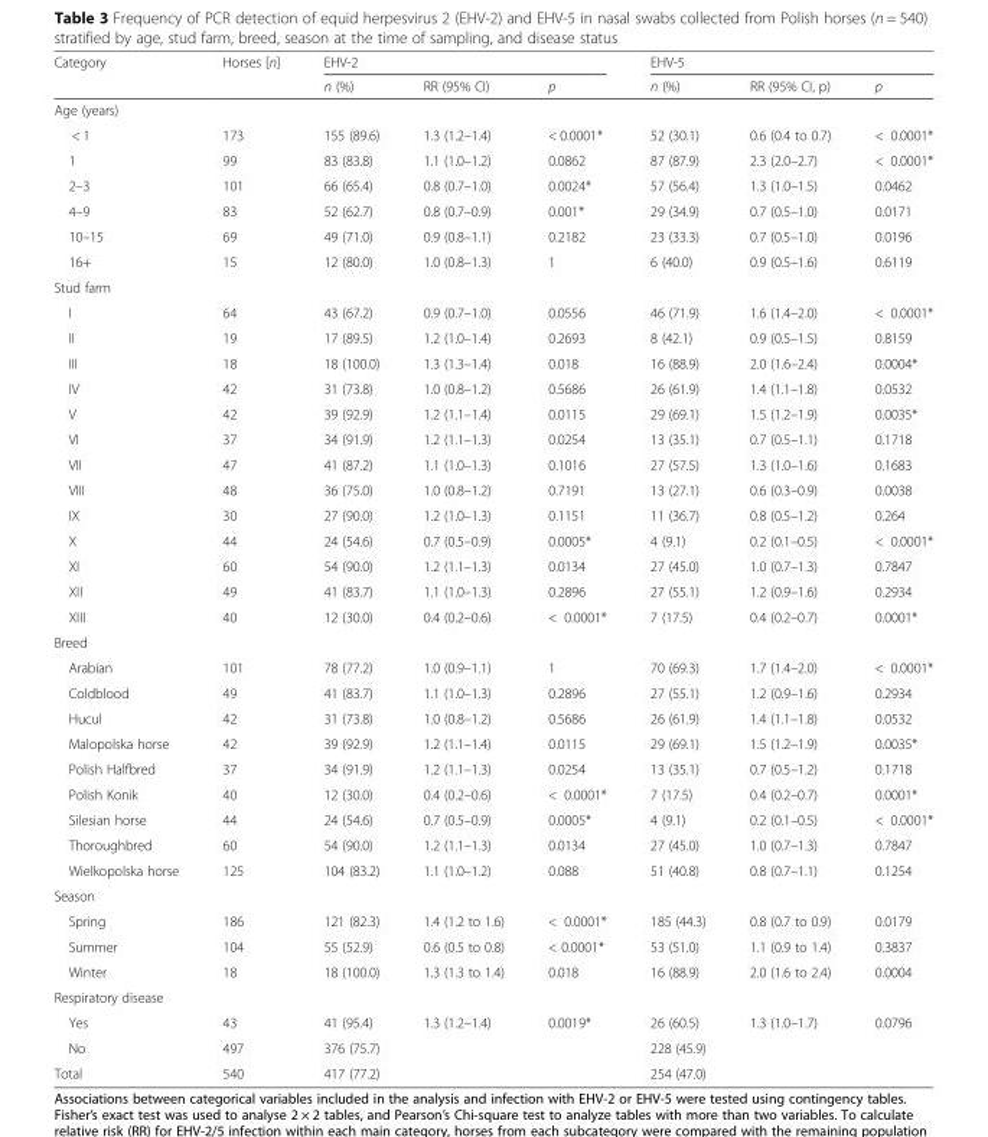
<table><thead><tr><td rowspan="2">Category</td><td rowspan="2">Horses [n]</td><td colspan="3">EHV-2</td><td colspan="3">EHV-5</td></tr><tr><td>n (%)</td><td>RR (95% CI)</td><td>p</td><td>n (%)</td><td>RR (95% CI, p)</td><td>p</td></tr></thead><tbody><tr><td colspan="8">Age (years)</td></tr><tr><td>&lt; 1</td><td>173</td><td>155 (89.6)</td><td>1.3 (1.2–1.4)</td><td>&lt; 0.0001*</td><td>52 (30.1)</td><td>0.6 (0.4 to 0.7)</td><td>&lt; 0.0001*</td></tr><tr><td>1</td><td>99</td><td>83 (83.8)</td><td>1.1 (1.0–1.2)</td><td>0.0862</td><td>87 (87.9)</td><td>2.3 (2.0–2.7)</td><td>&lt; 0.0001*</td></tr><tr><td>2–3</td><td>101</td><td>66 (65.4)</td><td>0.8 (0.7–1.0)</td><td>0.0024*</td><td>57 (56.4)</td><td>1.3 (1.0–1.5)</td><td>0.0462</td></tr><tr><td>4–9</td><td>83</td><td>52 (62.7)</td><td>0.8 (0.7–0.9)</td><td>0.001*</td><td>29 (34.9)</td><td>0.7 (0.5–1.0)</td><td>0.0171</td></tr><tr><td>10–15</td><td>69</td><td>49 (71.0)</td><td>0.9 (0.8–1.1)</td><td>0.2182</td><td>23 (33.3)</td><td>0.7 (0.5–1.0)</td><td>0.0196</td></tr><tr><td>16+</td><td>15</td><td>12 (80.0)</td><td>1.0 (0.8–1.3)</td><td>1</td><td>6 (40.0)</td><td>0.9 (0.5–1.6)</td><td>0.6119</td></tr><tr><td colspan="8">Stud farm</td></tr><tr><td>I</td><td>64</td><td>43 (67.2)</td><td>0.9 (0.7–1.0)</td><td>0.0556</td><td>46 (71.9)</td><td>1.6 (1.4–2.0)</td><td>&lt; 0.0001*</td></tr><tr><td>II</td><td>19</td><td>17 (89.5)</td><td>1.2 (1.0–1.4)</td><td>0.2693</td><td>8 (42.1)</td><td>0.9 (0.5–1.5)</td><td>0.8159</td></tr><tr><td>III</td><td>18</td><td>18 (100.0)</td><td>1.3 (1.3–1.4)</td><td>0.018</td><td>16 (88.9)</td><td>2.0 (1.6–2.4)</td><td>0.0004*</td></tr><tr><td>IV</td><td>42</td><td>31 (73.8)</td><td>1.0 (0.8–1.2)</td><td>0.5686</td><td>26 (61.9)</td><td>1.4 (1.1–1.8)</td><td>0.0532</td></tr><tr><td>V</td><td>42</td><td>39 (92.9)</td><td>1.2 (1.1–1.4)</td><td>0.0115</td><td>29 (69.1)</td><td>1.5 (1.2–1.9)</td><td>0.0035*</td></tr><tr><td>VI</td><td>37</td><td>34 (91.9)</td><td>1.2 (1.1–1.3)</td><td>0.0254</td><td>13 (35.1)</td><td>0.7 (0.5–1.1)</td><td>0.1718</td></tr><tr><td>VII</td><td>47</td><td>41 (87.2)</td><td>1.1 (1.0–1.3)</td><td>0.1016</td><td>27 (57.5)</td><td>1.3 (1.0–1.6)</td><td>0.1683</td></tr><tr><td>VIII</td><td>48</td><td>36 (75.0)</td><td>1.0 (0.8–1.2)</td><td>0.7191</td><td>13 (27.1)</td><td>0.6 (0.3–0.9)</td><td>0.0038</td></tr><tr><td>IX</td><td>30</td><td>27 (90.0)</td><td>1.2 (1.0–1.3)</td><td>0.1151</td><td>11 (36.7)</td><td>0.8 (0.5–1.2)</td><td>0.264</td></tr><tr><td>X</td><td>44</td><td>24 (54.6)</td><td>0.7 (0.5–0.9)</td><td>0.0005*</td><td>4 (9.1)</td><td>0.2 (0.1–0.5)</td><td>&lt; 0.0001*</td></tr><tr><td>XI</td><td>60</td><td>54 (90.0)</td><td>1.2 (1.1–1.3)</td><td>0.0134</td><td>27 (45.0)</td><td>1.0 (0.7–1.3)</td><td>0.7847</td></tr><tr><td>XII</td><td>49</td><td>41 (83.7)</td><td>1.1 (1.0–1.3)</td><td>0.2896</td><td>27 (55.1)</td><td>1.2 (0.9–1.6)</td><td>0.2934</td></tr><tr><td>XIII</td><td>40</td><td>12 (30.0)</td><td>0.4 (0.2–0.6)</td><td>&lt; 0.0001*</td><td>7 (17.5)</td><td>0.4 (0.2–0.7)</td><td>0.0001*</td></tr><tr><td colspan="8">Breed</td></tr><tr><td>Arabian</td><td>101</td><td>78 (77.2)</td><td>1.0 (0.9–1.1)</td><td>1</td><td>70 (69.3)</td><td>1.7 (1.4–2.0)</td><td>&lt; 0.0001*</td></tr><tr><td>Coldblood</td><td>49</td><td>41 (83.7)</td><td>1.1 (1.0–1.3)</td><td>0.2896</td><td>27 (55.1)</td><td>1.2 (0.9–1.6)</td><td>0.2934</td></tr><tr><td>Hucul</td><td>42</td><td>31 (73.8)</td><td>1.0 (0.8–1.2)</td><td>0.5686</td><td>26 (61.9)</td><td>1.4 (1.1–1.8)</td><td>0.0532</td></tr><tr><td>Malopolska horse</td><td>42</td><td>39 (92.9)</td><td>1.2 (1.1–1.4)</td><td>0.0115</td><td>29 (69.1)</td><td>1.5 (1.2–1.9)</td><td>0.0035*</td></tr><tr><td>Polish Halfbred</td><td>37</td><td>34 (91.9)</td><td>1.2 (1.1–1.3)</td><td>0.0254</td><td>13 (35.1)</td><td>0.7 (0.5–1.2)</td><td>0.1718</td></tr><tr><td>Polish Konik</td><td>40</td><td>12 (30.0)</td><td>0.4 (0.2–0.6)</td><td>&lt; 0.0001*</td><td>7 (17.5)</td><td>0.4 (0.2–0.7)</td><td>0.0001*</td></tr><tr><td>Silesian horse</td><td>44</td><td>24 (54.6)</td><td>0.7 (0.5–0.9)</td><td>0.0005*</td><td>4 (9.1)</td><td>0.2 (0.1–0.5)</td><td>&lt; 0.0001*</td></tr><tr><td>Thoroughbred</td><td>60</td><td>54 (90.0)</td><td>1.2 (1.1–1.3)</td><td>0.0134</td><td>27 (45.0)</td><td>1.0 (0.7–1.3)</td><td>0.7847</td></tr><tr><td>Wielkopolska horse</td><td>125</td><td>104 (83.2)</td><td>1.1 (1.0–1.2)</td><td>0.088</td><td>51 (40.8)</td><td>0.8 (0.7–1.1)</td><td>0.1254</td></tr><tr><td colspan="8">Season</td></tr><tr><td>Spring</td><td>186</td><td>121 (82.3)</td><td>1.4 (1.2 to 1.6)</td><td>&lt; 0.0001*</td><td>185 (44.3)</td><td>0.8 (0.7 to 0.9)</td><td>0.0179</td></tr><tr><td>Summer</td><td>104</td><td>55 (52.9)</td><td>0.6 (0.5 to 0.8)</td><td>&lt; 0.0001*</td><td>53 (51.0)</td><td>1.1 (0.9 to 1.4)</td><td>0.3837</td></tr><tr><td>Winter</td><td>18</td><td>18 (100.0)</td><td>1.3 (1.3 to 1.4)</td><td>0.018</td><td>16 (88.9)</td><td>2.0 (1.6 to 2.4)</td><td>0.0004</td></tr><tr><td colspan="8">Respiratory disease</td></tr><tr><td>Yes</td><td>43</td><td>41 (95.4)</td><td>1.3 (1.2–1.4)</td><td>0.0019*</td><td>26 (60.5)</td><td>1.3 (1.0–1.7)</td><td>0.0796</td></tr><tr><td>No</td><td>497</td><td>376 (75.7)</td><td></td><td></td><td>228 (45.9)</td><td></td><td></td></tr><tr><td>Total</td><td>540</td><td>417 (77.2)</td><td></td><td></td><td>254 (47.0)</td><td></td><td></td></tr></tbody></table>